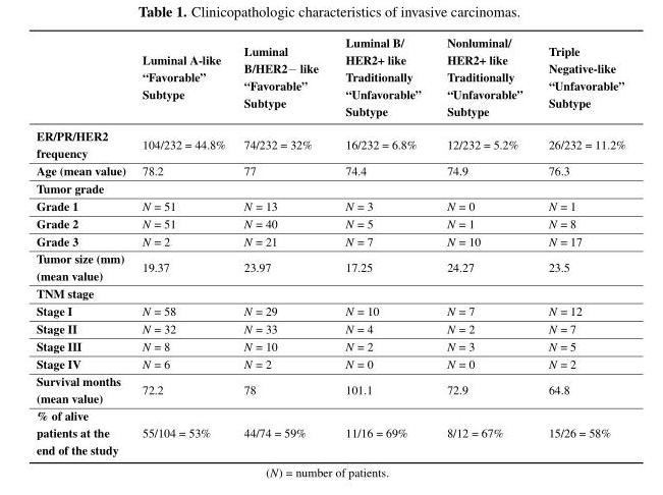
<table><thead><tr><td></td><td>Luminal A-like “Favorable” Subtype</td><td>Luminal B/HER2− like “Favorable” Subtype</td><td>Luminal B/ HER2+ like Traditionally “Unfavorable” Subtype</td><td>Nonluminal/ HER2+ like Traditionally “Unfavorable” Subtype</td><td>Triple Negative-like “Unfavorable” Subtype</td></tr></thead><tbody><tr><td>ER/PR/HER2 frequency</td><td>104/232 = 44.8%</td><td>74/232 = 32%</td><td>16/232 = 6.8%</td><td>12/232 = 5.2%</td><td>26/232 = 11.2%</td></tr><tr><td>Age (mean value)</td><td>78.2</td><td>77</td><td>74.4</td><td>74.9</td><td>76.3</td></tr><tr><td colspan="6">Tumor grade</td></tr><tr><td>Grade 1</td><td>N = 51</td><td>N = 13</td><td>N = 3</td><td>N = 0</td><td>N = 1</td></tr><tr><td>Grade 2</td><td>N = 51</td><td>N = 40</td><td>N = 5</td><td>N = 1</td><td>N = 8</td></tr><tr><td>Grade 3</td><td>N = 2</td><td>N = 21</td><td>N = 7</td><td>N = 10</td><td>N = 17</td></tr><tr><td>Tumor size (mm) (mean value)</td><td>19.37</td><td>23.97</td><td>17.25</td><td>24.27</td><td>23.5</td></tr><tr><td colspan="6">TNM stage</td></tr><tr><td>Stage I</td><td>N = 58</td><td>N = 29</td><td>N = 10</td><td>N = 7</td><td>N = 12</td></tr><tr><td>Stage II</td><td>N = 32</td><td>N = 33</td><td>N = 4</td><td>N = 2</td><td>N = 7</td></tr><tr><td>Stage III</td><td>N = 8</td><td>N = 10</td><td>N = 2</td><td>N = 3</td><td>N = 5</td></tr><tr><td>Stage IV</td><td>N = 6</td><td>N = 2</td><td>N = 0</td><td>N = 0</td><td>N = 2</td></tr><tr><td>Survival months (mean value)</td><td>72.2</td><td>78</td><td>101.1</td><td>72.9</td><td>64.8</td></tr><tr><td>% of alive patients at the end of the study</td><td>55/104 = 53%</td><td>44/74 = 59%</td><td>11/16 = 69%</td><td>8/12 = 67%</td><td>15/26 = 58%</td></tr></tbody></table>